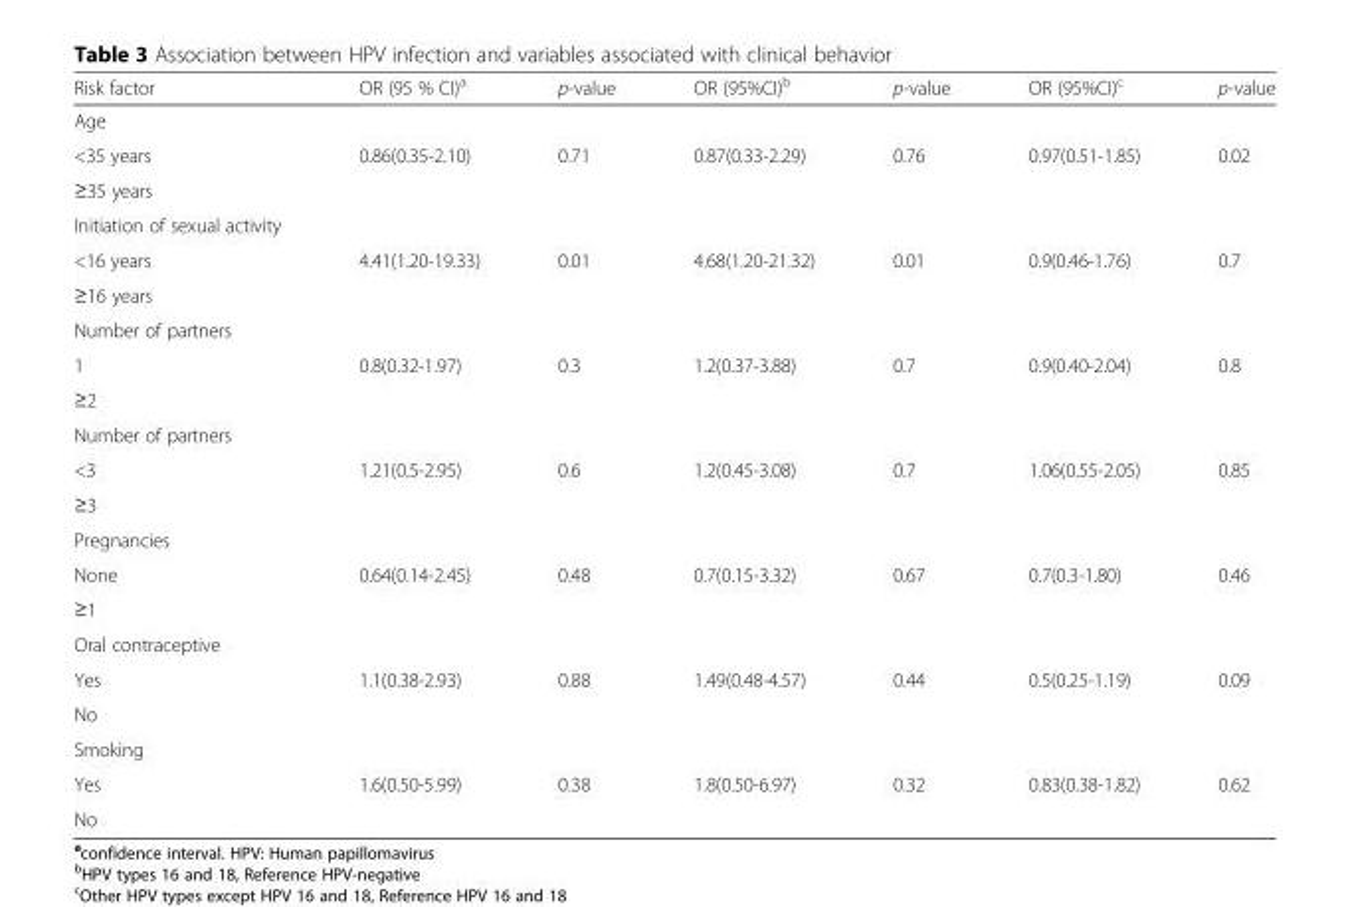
<table><thead><tr><td>Risk factor</td><td>OR (95 % CI)<sup>a</sup></td><td>p-value</td><td>OR (95%CI)<sup>b</sup></td><td>p-value</td><td>OR (95%CI)<sup>c</sup></td><td>p-value</td></tr></thead><tbody><tr><td colspan="7">Age</td></tr><tr><td>&lt;35 years</td><td>0.86(0.35-2.10)</td><td>0.71</td><td>0.87(0.33-2.29)</td><td>0.76</td><td>0.97(0.51-1.85)</td><td>0.02</td></tr><tr><td colspan="7">≥35 years</td></tr><tr><td colspan="7">Initiation of sexual activity</td></tr><tr><td>&lt;16 years</td><td>4.41(1.20-19.33)</td><td>0.01</td><td>4.68(1.20-21.32)</td><td>0.01</td><td>0.9(0.46-1.76)</td><td>0.7</td></tr><tr><td colspan="7">≥16 years</td></tr><tr><td colspan="7">Number of partners</td></tr><tr><td>1</td><td>0.8(0.32-1.97)</td><td>0.3</td><td>1.2(0.37-3.88)</td><td>0.7</td><td>0.9(0.40-2.04)</td><td>0.8</td></tr><tr><td colspan="7">≥2</td></tr><tr><td colspan="7">Number of partners</td></tr><tr><td>&lt;3</td><td>1.21(0.5-2.95)</td><td>0.6</td><td>1.2(0.45-3.08)</td><td>0.7</td><td>1.06(0.55-2.05)</td><td>0.85</td></tr><tr><td colspan="7">≥3</td></tr><tr><td colspan="7">Pregnancies</td></tr><tr><td>None</td><td>0.64(0.14-2.45)</td><td>0.48</td><td>0.7(0.15-3.32)</td><td>0.67</td><td>0.7(0.3-1.80)</td><td>0.46</td></tr><tr><td colspan="7">≥1</td></tr><tr><td colspan="7">Oral contraceptive</td></tr><tr><td>Yes</td><td>1.1(0.38-2.93)</td><td>0.88</td><td>1.49(0.48-4.57)</td><td>0.44</td><td>0.5(0.25-1.19)</td><td>0.09</td></tr><tr><td colspan="7">No</td></tr><tr><td colspan="7">Smoking</td></tr><tr><td>Yes</td><td>1.6(0.50-5.99)</td><td>0.38</td><td>1.8(0.50-6.97)</td><td>0.32</td><td>0.83(0.38-1.82)</td><td>0.62</td></tr><tr><td>No</td><td></td><td></td><td></td><td></td><td></td><td></td></tr></tbody></table>